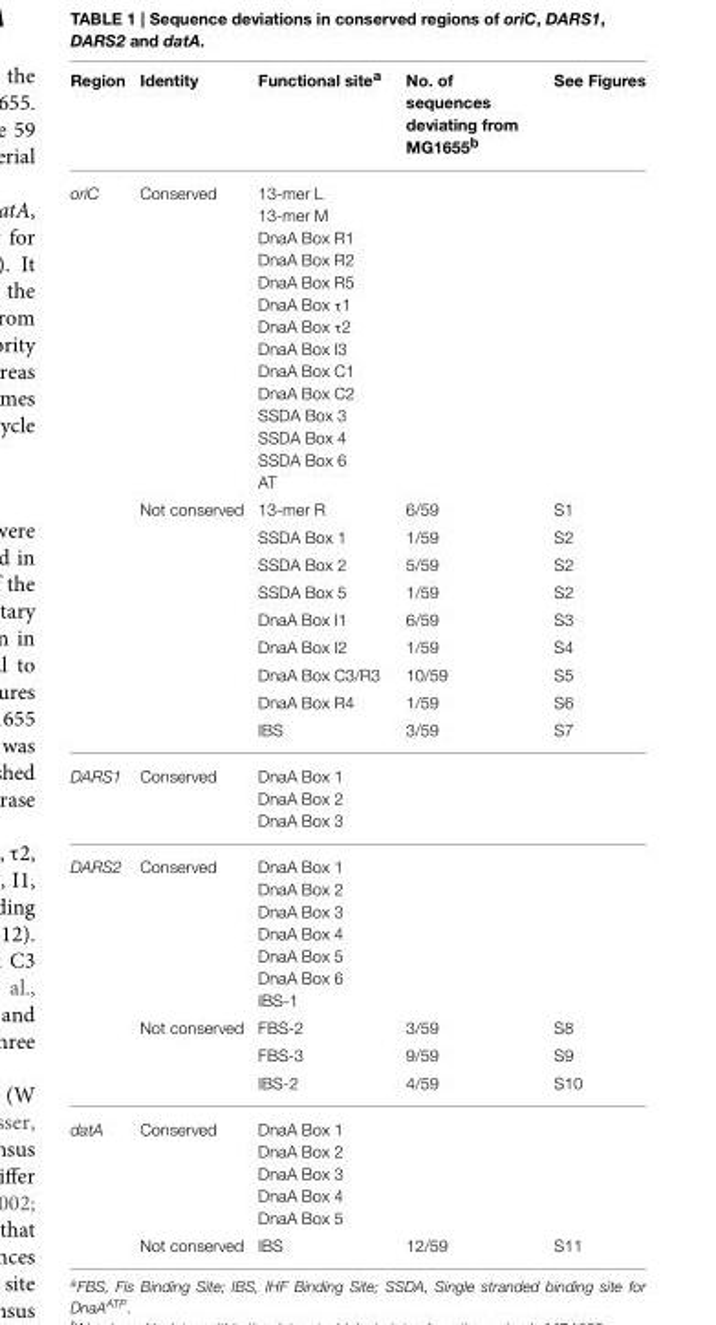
<table><thead><tr><td>Region</td><td>Identity</td><td>Functional site<sup>a</sup></td><td>No. of sequences deviating from MG1655<sup>b</sup></td><td>See Figures</td></tr></thead><tbody><tr><td rowspan="10">oriC</td><td>Conserved</td><td>13-mer L 13-mer M DnaA Box R1 DnaA Box R2 DnaA Box R5 DnaA Box τ1 DnaA Box τ2 DnaA Box I3 DnaA Box C1 DnaA Box C2 SSDA Box 3 SSDA Box 4 SSDA Box 6 AT</td><td></td><td></td></tr><tr><td>Not conserved</td><td>13-mer R</td><td>6/59</td><td>S1</td></tr><tr><td></td><td>SSDA Box 1</td><td>1/59</td><td>S2</td></tr><tr><td></td><td>SSDA Box 2</td><td>5/59</td><td>S2</td></tr><tr><td></td><td>SSDA Box 5</td><td>1/59</td><td>S2</td></tr><tr><td></td><td>DnaA Box I1</td><td>6/59</td><td>S3</td></tr><tr><td></td><td>DnaA Box I2</td><td>1/59</td><td>S4</td></tr><tr><td></td><td>DnaA Box C3/R3</td><td>10/59</td><td>S5</td></tr><tr><td></td><td>DnaA Box R4</td><td>1/59</td><td>S6</td></tr><tr><td></td><td>IBS</td><td>3/59</td><td>S7</td></tr><tr><td>DARS1</td><td>Conserved</td><td>DnaA Box 1 DnaA Box 2 DnaA Box 3</td><td></td><td></td></tr><tr><td rowspan="4">DARS2</td><td>Conserved</td><td>DnaA Box 1 DnaA Box 2 DnaA Box 3 DnaA Box 4 DnaA Box 5 DnaA Box 6 IBS-1</td><td></td><td></td></tr><tr><td>Not conserved</td><td>FBS-2</td><td>3/59</td><td>S8</td></tr><tr><td></td><td>FBS-3</td><td>9/59</td><td>S9</td></tr><tr><td></td><td>IBS-2</td><td>4/59</td><td>S10</td></tr><tr><td rowspan="2">datA</td><td>Conserved</td><td>DnaA Box 1 DnaA Box 2 DnaA Box 3 DnaA Box 4 DnaA Box 5</td><td></td><td></td></tr><tr><td>Not conserved</td><td>IBS</td><td>12/59</td><td>S11</td></tr></tbody></table>